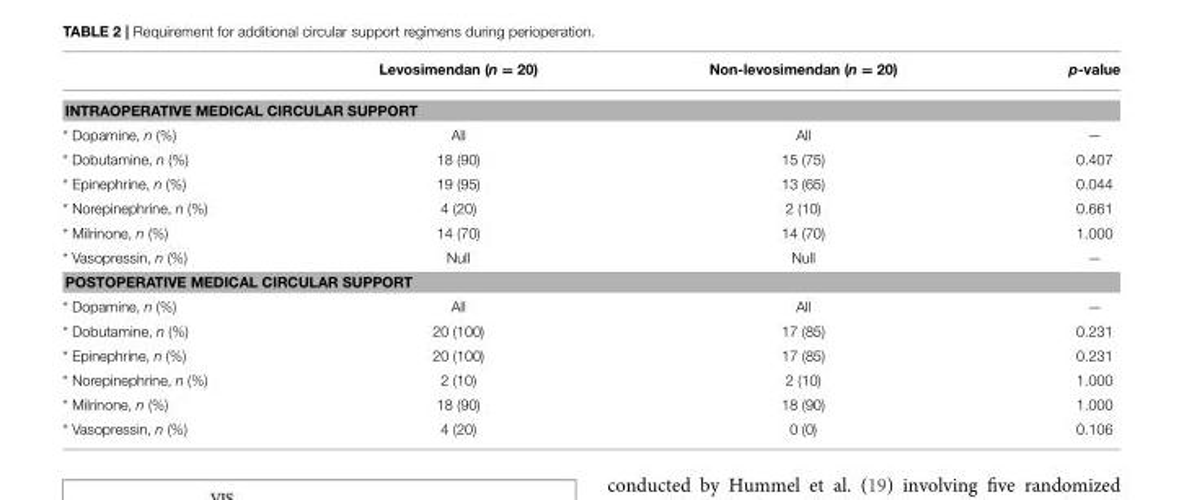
<table><thead><tr><td></td><td>Levosimendan (n = 20)</td><td>Non-levosimendan (n = 20)</td><td>p-value</td></tr></thead><tbody><tr><td colspan="4">INTRAOPERATIVE MEDICAL CIRCULAR SUPPORT</td></tr><tr><td>* Dopamine, n (%)</td><td>All</td><td>All</td><td>—</td></tr><tr><td>* Dobutamine, n (%)</td><td>18 (90)</td><td>15 (75)</td><td>0.407</td></tr><tr><td>* Epinephrine, n (%)</td><td>19 (95)</td><td>13 (65)</td><td>0.044</td></tr><tr><td>* Norepinephrine, n (%)</td><td>4 (20)</td><td>2 (10)</td><td>0.661</td></tr><tr><td>* Milrinone, n (%)</td><td>14 (70)</td><td>14 (70)</td><td>1.000</td></tr><tr><td>* Vasopressin, n (%)</td><td>Null</td><td>Null</td><td>—</td></tr><tr><td colspan="4">POSTOPERATIVE MEDICAL CIRCULAR SUPPORT</td></tr><tr><td>* Dopamine, n (%)</td><td>All</td><td>All</td><td>—</td></tr><tr><td>* Dobutamine, n (%)</td><td>20 (100)</td><td>17 (85)</td><td>0.231</td></tr><tr><td>* Epinephrine, n (%)</td><td>20 (100)</td><td>17 (85)</td><td>0.231</td></tr><tr><td>* Norepinephrine, n (%)</td><td>2 (10)</td><td>2 (10)</td><td>1.000</td></tr><tr><td>* Milrinone, n (%)</td><td>18 (90)</td><td>18 (90)</td><td>1.000</td></tr><tr><td>* Vasopressin, n (%)</td><td>4 (20)</td><td>0 (0)</td><td>0.106</td></tr></tbody></table>